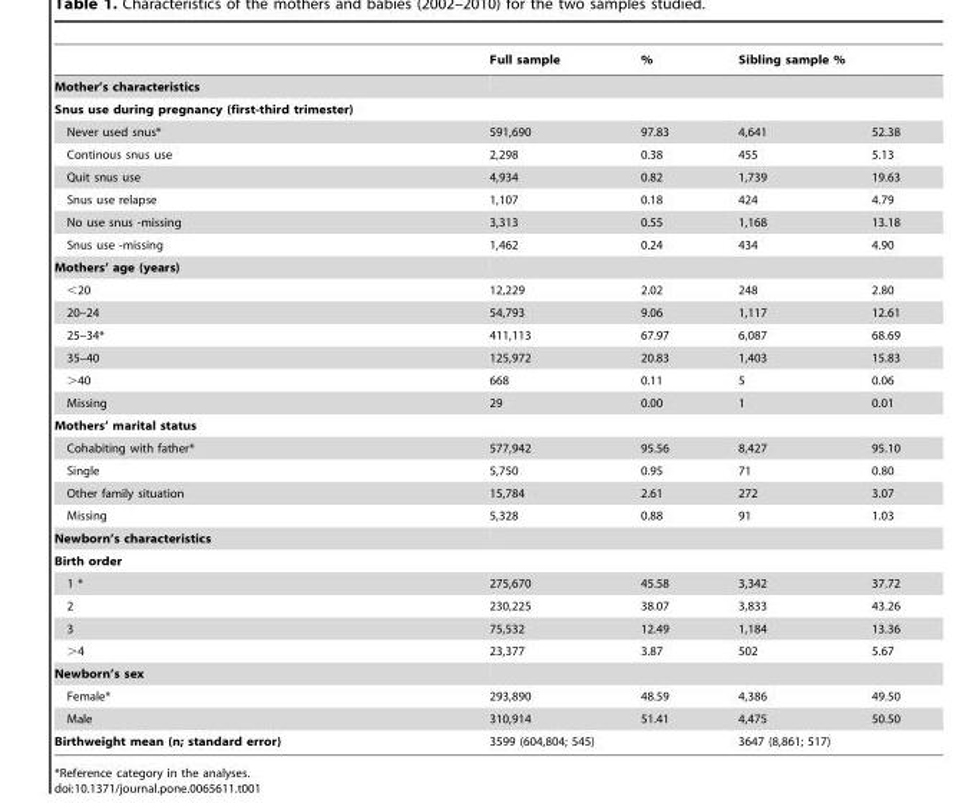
<table><thead><tr><td rowspan="2">Mother’s characteristics</td><td rowspan="2">Full sample</td><td rowspan="2">%</td><td colspan="2">Sibling sample %</td></tr><tr><td></td><td></td></tr></thead><tbody><tr><td colspan="5">Snus use during pregnancy (first-third trimester)</td></tr><tr><td>Never used snus*</td><td>591,690</td><td>97.83</td><td>4,641</td><td>52.38</td></tr><tr><td>Continous snus use</td><td>2,298</td><td>0.38</td><td>455</td><td>5.13</td></tr><tr><td>Quit snus use</td><td>4,934</td><td>0.82</td><td>1,739</td><td>19.63</td></tr><tr><td>Snus use relapse</td><td>1,107</td><td>0.18</td><td>424</td><td>4.79</td></tr><tr><td>No use snus -missing</td><td>3,313</td><td>0.55</td><td>1,168</td><td>13.18</td></tr><tr><td>Snus use -missing</td><td>1,462</td><td>0.24</td><td>434</td><td>4.90</td></tr><tr><td colspan="5">Mothers’ age (years)</td></tr><tr><td>&lt;20</td><td>12,229</td><td>2.02</td><td>248</td><td>2.80</td></tr><tr><td>20–24</td><td>54,793</td><td>9.06</td><td>1,117</td><td>12.61</td></tr><tr><td>25–34*</td><td>411,113</td><td>67.97</td><td>6,087</td><td>68.69</td></tr><tr><td>35–40</td><td>125,972</td><td>20.83</td><td>1,403</td><td>15.83</td></tr><tr><td>&gt;40</td><td>668</td><td>0.11</td><td>5</td><td>0.06</td></tr><tr><td>Missing</td><td>29</td><td>0.00</td><td>1</td><td>0.01</td></tr><tr><td colspan="5">Mothers’ marital status</td></tr><tr><td>Cohabiting with father*</td><td>577,942</td><td>95.56</td><td>8,427</td><td>95.10</td></tr><tr><td>Single</td><td>5,750</td><td>0.95</td><td>71</td><td>0.80</td></tr><tr><td>Other family situation</td><td>15,784</td><td>2.61</td><td>272</td><td>3.07</td></tr><tr><td>Missing</td><td>5,328</td><td>0.88</td><td>91</td><td>1.03</td></tr><tr><td colspan="5">Newborn’s characteristics</td></tr><tr><td colspan="5">Birth order</td></tr><tr><td>1 *</td><td>275,670</td><td>45.58</td><td>3,342</td><td>37.72</td></tr><tr><td>2</td><td>230,225</td><td>38.07</td><td>3,833</td><td>43.26</td></tr><tr><td>3</td><td>75,532</td><td>12.49</td><td>1,184</td><td>13.36</td></tr><tr><td>&gt;4</td><td>23,377</td><td>3.87</td><td>502</td><td>5.67</td></tr><tr><td colspan="5">Newborn’s sex</td></tr><tr><td>Female*</td><td>293,890</td><td>48.59</td><td>4,386</td><td>49.50</td></tr><tr><td>Male</td><td>310,914</td><td>51.41</td><td>4,475</td><td>50.50</td></tr><tr><td>Birthweight mean (n; standard error)</td><td colspan="2">3599 (604,804; 545)</td><td colspan="2">3647 (8,861; 517)</td></tr></tbody></table>